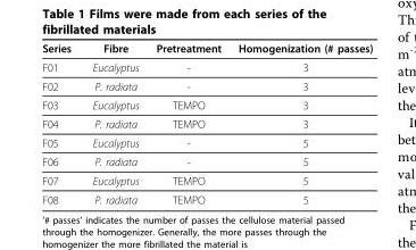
<table><thead><tr><td>Series</td><td>Fibre</td><td>Pretreatment</td><td>Homogenization (# passes)</td></tr></thead><tbody><tr><td>F01</td><td>Eucalyptus</td><td>-</td><td>3</td></tr><tr><td>F02</td><td>P. radiata</td><td>-</td><td>3</td></tr><tr><td>F03</td><td>Eucalyptus</td><td>TEMPO</td><td>3</td></tr><tr><td>F04</td><td>P. radiata</td><td>TEMPO</td><td>3</td></tr><tr><td>F05</td><td>Eucalyptus</td><td>-</td><td>5</td></tr><tr><td>F06</td><td>P. radiata</td><td>-</td><td>5</td></tr><tr><td>F07</td><td>Eucalyptus</td><td>TEMPO</td><td>5</td></tr><tr><td>F08</td><td>P. radiata</td><td>TEMPO</td><td>5</td></tr></tbody></table>